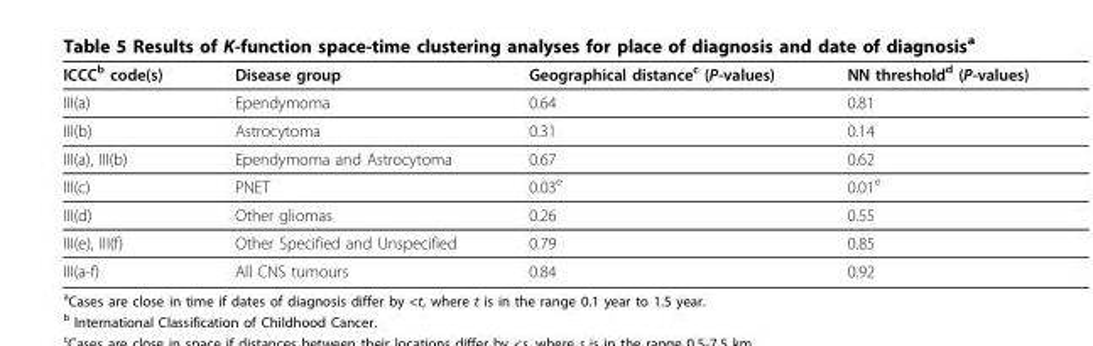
<table><thead><tr><td>ICCC<sup>b</sup> code(s)</td><td>Disease group</td><td>Geographical distance<sup>c</sup> (P-values)</td><td>NN threshold<sup>d</sup> (P-values)</td></tr></thead><tbody><tr><td>III(a)</td><td>Ependymoma</td><td>0.64</td><td>0.81</td></tr><tr><td>III(b)</td><td>Astrocytoma</td><td>0.31</td><td>0.14</td></tr><tr><td>III(a), III(b)</td><td>Ependymoma and Astrocytoma</td><td>0.67</td><td>0.62</td></tr><tr><td>III(c)</td><td>PNET</td><td>0.03<sup>e</sup></td><td>0.01<sup>e</sup></td></tr><tr><td>III(d)</td><td>Other gliomas</td><td>0.26</td><td>0.55</td></tr><tr><td>III(e), III(f)</td><td>Other Specified and Unspecified</td><td>0.79</td><td>0.85</td></tr><tr><td>III(a-f)</td><td>All CNS tumours</td><td>0.84</td><td>0.92</td></tr></tbody></table>